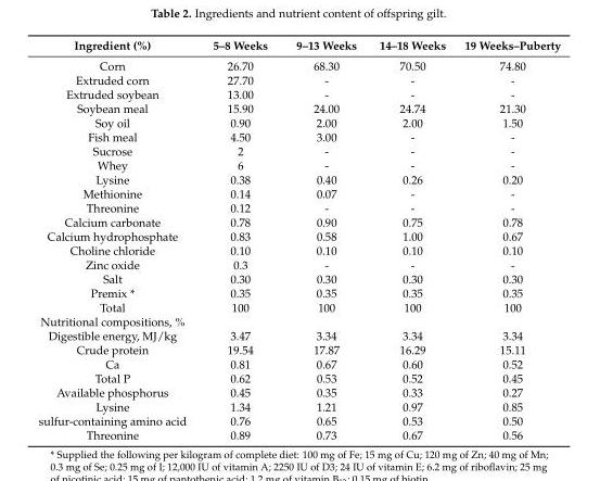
<table><thead><tr><td>Ingredient (%)</td><td>5–8 Weeks</td><td>9–13 Weeks</td><td>14–18 Weeks</td><td>19 Weeks–Puberty</td></tr></thead><tbody><tr><td>Corn</td><td>26.70</td><td>68.30</td><td>70.50</td><td>74.80</td></tr><tr><td>Extruded corn</td><td>27.70</td><td>-</td><td>-</td><td>-</td></tr><tr><td>Extruded soybean</td><td>13.00</td><td>-</td><td>-</td><td>-</td></tr><tr><td>Soybean meal</td><td>15.90</td><td>24.00</td><td>24.74</td><td>21.30</td></tr><tr><td>Soy oil</td><td>0.90</td><td>2.00</td><td>2.00</td><td>1.50</td></tr><tr><td>Fish meal</td><td>4.50</td><td>3.00</td><td>-</td><td>-</td></tr><tr><td>Sucrose</td><td>2</td><td>-</td><td>-</td><td>-</td></tr><tr><td>Whey</td><td>6</td><td>-</td><td>-</td><td>-</td></tr><tr><td>Lysine</td><td>0.38</td><td>0.40</td><td>0.26</td><td>0.20</td></tr><tr><td>Methionine</td><td>0.14</td><td>0.07</td><td>-</td><td>-</td></tr><tr><td>Threonine</td><td>0.12</td><td>-</td><td>-</td><td>-</td></tr><tr><td>Calcium carbonate</td><td>0.78</td><td>0.90</td><td>0.75</td><td>0.78</td></tr><tr><td>Calcium hydrophosphate</td><td>0.83</td><td>0.58</td><td>1.00</td><td>0.67</td></tr><tr><td>Choline chloride</td><td>0.10</td><td>0.10</td><td>0.10</td><td>0.10</td></tr><tr><td>Zinc oxide</td><td>0.3</td><td>-</td><td>-</td><td>-</td></tr><tr><td>Salt</td><td>0.30</td><td>0.30</td><td>0.30</td><td>0.30</td></tr><tr><td>Premix *</td><td>0.35</td><td>0.35</td><td>0.35</td><td>0.35</td></tr><tr><td>Total</td><td>100</td><td>100</td><td>100</td><td>100</td></tr><tr><td colspan="5">Nutritional compositions, %</td></tr><tr><td>Digestible energy, MJ/kg</td><td>3.47</td><td>3.34</td><td>3.34</td><td>3.34</td></tr><tr><td>Crude protein</td><td>19.54</td><td>17.87</td><td>16.29</td><td>15.11</td></tr><tr><td>Ca</td><td>0.81</td><td>0.67</td><td>0.60</td><td>0.52</td></tr><tr><td>Total P</td><td>0.62</td><td>0.53</td><td>0.52</td><td>0.45</td></tr><tr><td>Available phosphorus</td><td>0.45</td><td>0.35</td><td>0.33</td><td>0.27</td></tr><tr><td>Lysine</td><td>1.34</td><td>1.21</td><td>0.97</td><td>0.85</td></tr><tr><td>sulfur-containing amino acid</td><td>0.76</td><td>0.65</td><td>0.53</td><td>0.50</td></tr><tr><td>Threonine</td><td>0.89</td><td>0.73</td><td>0.67</td><td>0.56</td></tr></tbody></table>